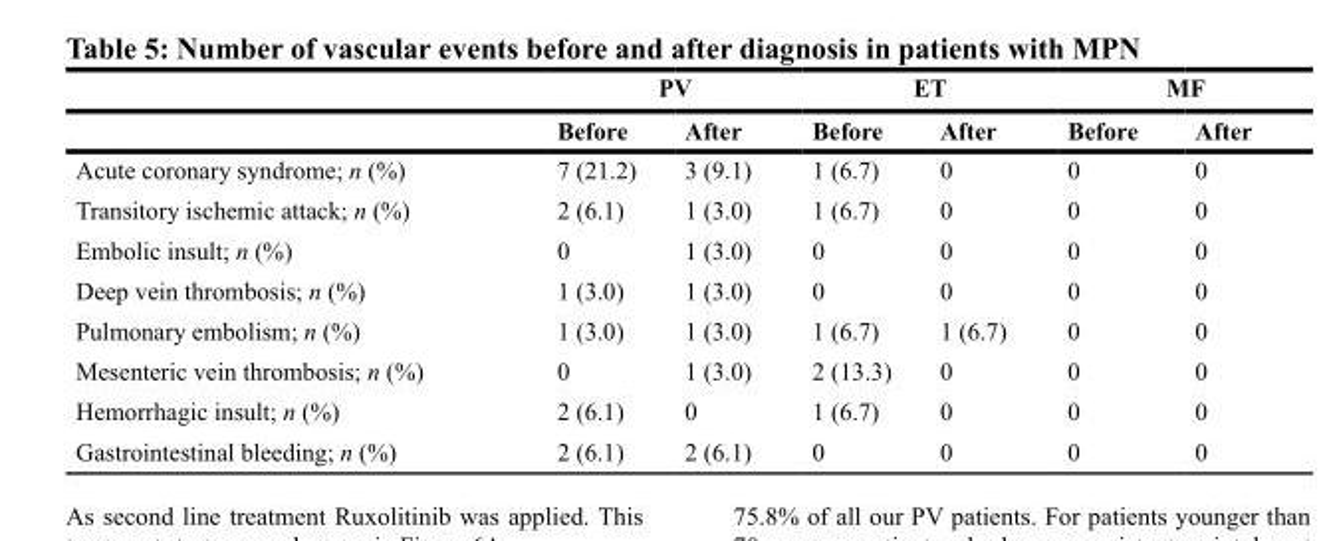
<table><thead><tr><td rowspan="2"></td><td colspan="2">PV</td><td colspan="2">ET</td><td colspan="2">MF</td></tr><tr><td>Before</td><td>After</td><td>Before</td><td>After</td><td>Before</td><td>After</td></tr></thead><tbody><tr><td>Acute coronary syndrome; n (%)</td><td>7 (21.2)</td><td>3 (9.1)</td><td>1 (6.7)</td><td>0</td><td>0</td><td>0</td></tr><tr><td>Transitory ischemic attack; n (%)</td><td>2 (6.1)</td><td>1 (3.0)</td><td>1 (6.7)</td><td>0</td><td>0</td><td>0</td></tr><tr><td>Embolic insult; n (%)</td><td>0</td><td>1 (3.0)</td><td>0</td><td>0</td><td>0</td><td>0</td></tr><tr><td>Deep vein thrombosis; n (%)</td><td>1 (3.0)</td><td>1 (3.0)</td><td>0</td><td>0</td><td>0</td><td>0</td></tr><tr><td>Pulmonary embolism; n (%)</td><td>1 (3.0)</td><td>1 (3.0)</td><td>1 (6.7)</td><td>1 (6.7)</td><td>0</td><td>0</td></tr><tr><td>Mesenteric vein thrombosis; n (%)</td><td>0</td><td>1 (3.0)</td><td>2 (13.3)</td><td>0</td><td>0</td><td>0</td></tr><tr><td>Hemorrhagic insult; n (%)</td><td>2 (6.1)</td><td>0</td><td>1 (6.7)</td><td>0</td><td>0</td><td>0</td></tr><tr><td>Gastrointestinal bleeding; n (%)</td><td>2 (6.1)</td><td>2 (6.1)</td><td>0</td><td>0</td><td>0</td><td>0</td></tr></tbody></table>